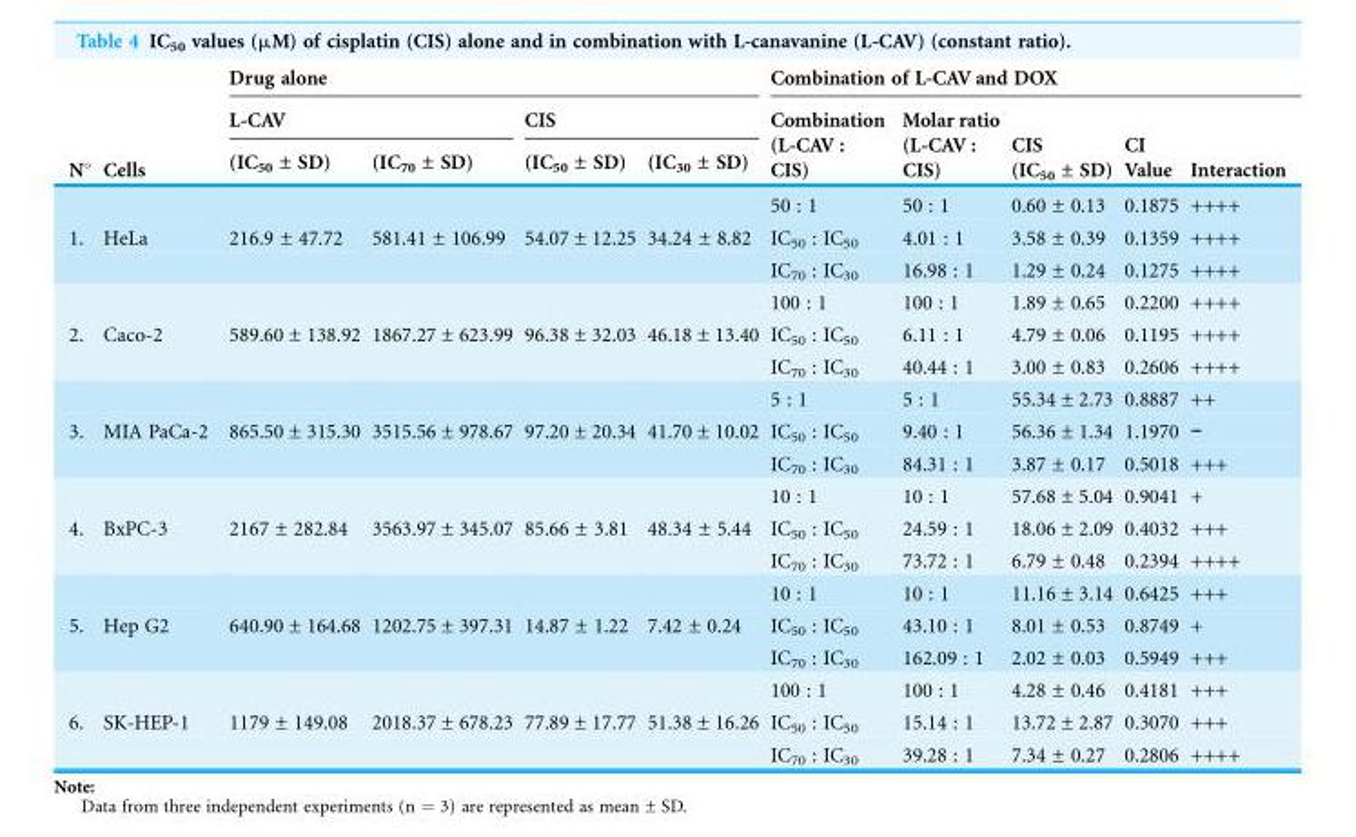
<table><thead><tr><td rowspan="3">N°</td><td rowspan="3">Cells</td><td colspan="4">Drug alone</td><td colspan="5">Combination of L-CAV and DOX</td></tr><tr><td colspan="2">L-CAV</td><td colspan="2">CIS</td><td rowspan="2">Combination (L-CAV : CIS)</td><td rowspan="2">Molar ratio (L-CAV : CIS)</td><td rowspan="2">CIS (IC<sub>50</sub> ± SD)</td><td rowspan="2">CI Value</td><td rowspan="2">Interaction</td></tr><tr><td>(IC<sub>50</sub> ± SD)</td><td>(IC<sub>70</sub> ± SD)</td><td>(IC<sub>50</sub> ± SD)</td><td>(IC<sub>30</sub> ± SD)</td></tr></thead><tbody><tr><td></td><td></td><td></td><td></td><td></td><td></td><td>50 : 1</td><td>50 : 1</td><td>0.60 ± 0.13</td><td>0.1875</td><td>++++</td></tr><tr><td rowspan="3">1.</td><td>HeLa</td><td>216.9 ± 47.72</td><td>581.41 ± 106.99</td><td>54.07 ± 12.25</td><td>34.24 ± 8.82</td><td>IC<sub>50</sub> : IC<sub>50</sub></td><td>4.01 : 1</td><td>3.58 ± 0.39</td><td>0.1359</td><td>++++</td></tr><tr><td></td><td></td><td></td><td></td><td></td><td>IC<sub>70</sub> : IC<sub>30</sub></td><td>16.98 : 1</td><td>1.29 ± 0.24</td><td>0.1275</td><td>++++</td></tr><tr><td></td><td></td><td></td><td></td><td></td><td>100 : 1</td><td>100 : 1</td><td>1.89 ± 0.65</td><td>0.2200</td><td>++++</td></tr><tr><td rowspan="3">2.</td><td>Caco-2</td><td>589.60 ± 138.92</td><td>1867.27 ± 623.99</td><td>96.38 ± 32.03</td><td>46.18 ± 13.40</td><td>IC<sub>50</sub> : IC<sub>50</sub></td><td>6.11 : 1</td><td>4.79 ± 0.06</td><td>0.1195</td><td>++++</td></tr><tr><td></td><td></td><td></td><td></td><td></td><td>IC<sub>70</sub> : IC<sub>30</sub></td><td>40.44 : 1</td><td>3.00 ± 0.83</td><td>0.2606</td><td>++++</td></tr><tr><td></td><td></td><td></td><td></td><td></td><td>5 : 1</td><td>5 : 1</td><td>55.34 ± 2.73</td><td>0.8887</td><td>++</td></tr><tr><td rowspan="3">3.</td><td>MIA PaCa-2</td><td>865.50 ± 315.30</td><td>3515.56 ± 978.67</td><td>97.20 ± 20.34</td><td>41.70 ± 10.02</td><td>IC<sub>50</sub> : IC<sub>50</sub></td><td>9.40 : 1</td><td>56.36 ± 1.34</td><td>1.1970</td><td>−</td></tr><tr><td></td><td></td><td></td><td></td><td></td><td>IC<sub>70</sub> : IC<sub>30</sub></td><td>84.31 : 1</td><td>3.87 ± 0.17</td><td>0.5018</td><td>+++</td></tr><tr><td></td><td></td><td></td><td></td><td></td><td>10 : 1</td><td>10 : 1</td><td>57.68 ± 5.04</td><td>0.9041</td><td>+</td></tr><tr><td rowspan="3">4.</td><td>BxPC-3</td><td>2167 ± 282.84</td><td>3563.97 ± 345.07</td><td>85.66 ± 3.81</td><td>48.34 ± 5.44</td><td>IC<sub>50</sub> : IC<sub>50</sub></td><td>24.59 : 1</td><td>18.06 ± 2.09</td><td>0.4032</td><td>+++</td></tr><tr><td></td><td></td><td></td><td></td><td></td><td>IC<sub>70</sub> : IC<sub>30</sub></td><td>73.72 : 1</td><td>6.79 ± 0.48</td><td>0.2394</td><td>++++</td></tr><tr><td></td><td></td><td></td><td></td><td></td><td>10 : 1</td><td>10 : 1</td><td>11.16 ± 3.14</td><td>0.6425</td><td>+++</td></tr><tr><td rowspan="3">5.</td><td>Hep G2</td><td>640.90 ± 164.68</td><td>1202.75 ± 397.31</td><td>14.87 ± 1.22</td><td>7.42 ± 0.24</td><td>IC<sub>50</sub> : IC<sub>50</sub></td><td>43.10 : 1</td><td>8.01 ± 0.53</td><td>0.8749</td><td>+</td></tr><tr><td></td><td></td><td></td><td></td><td></td><td>IC<sub>70</sub> : IC<sub>30</sub></td><td>162.09 : 1</td><td>2.02 ± 0.03</td><td>0.5949</td><td>+++</td></tr><tr><td></td><td></td><td></td><td></td><td></td><td>100 : 1</td><td>100 : 1</td><td>4.28 ± 0.46</td><td>0.4181</td><td>+++</td></tr><tr><td rowspan="2">6.</td><td>SK-HEP-1</td><td>1179 ± 149.08</td><td>2018.37 ± 678.23</td><td>77.89 ± 17.77</td><td>51.38 ± 16.26</td><td>IC<sub>50</sub> : IC<sub>50</sub></td><td>15.14 : 1</td><td>13.72 ± 2.87</td><td>0.3070</td><td>+++</td></tr><tr><td></td><td></td><td></td><td></td><td></td><td>IC<sub>70</sub> : IC<sub>30</sub></td><td>39.28 : 1</td><td>7.34 ± 0.27</td><td>0.2806</td><td>++++</td></tr></tbody></table>